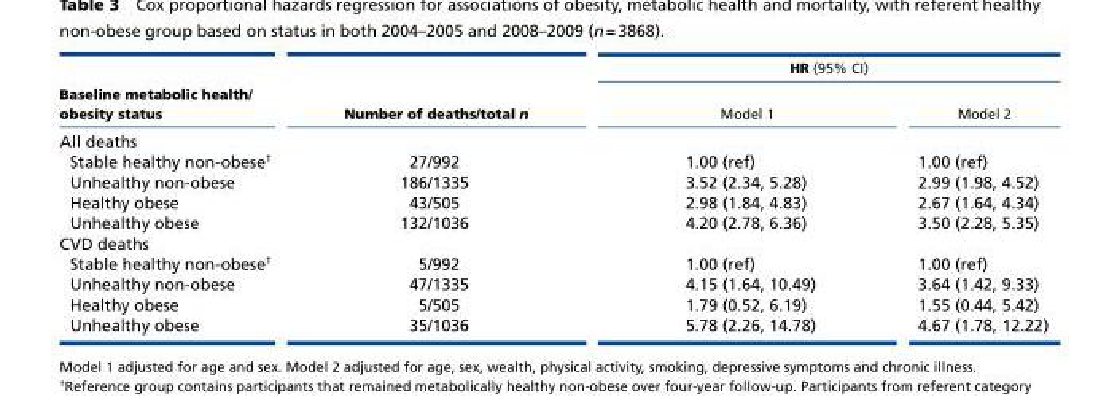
<table><thead><tr><td rowspan="2">Baseline metabolic health/ obesity status</td><td rowspan="2">Number of deaths/total n</td><td colspan="2">HR (95% CI)</td></tr><tr><td>Model 1</td><td>Model 2</td></tr></thead><tbody><tr><td colspan="4">All deaths</td></tr><tr><td>Stable healthy non-obese<sup>†</sup></td><td>27/992</td><td>1.00 (ref)</td><td>1.00 (ref)</td></tr><tr><td>Unhealthy non-obese</td><td>186/1335</td><td>3.52 (2.34, 5.28)</td><td>2.99 (1.98, 4.52)</td></tr><tr><td>Healthy obese</td><td>43/505</td><td>2.98 (1.84, 4.83)</td><td>2.67 (1.64, 4.34)</td></tr><tr><td>Unhealthy obese</td><td>132/1036</td><td>4.20 (2.78, 6.36)</td><td>3.50 (2.28, 5.35)</td></tr><tr><td colspan="4">CVD deaths</td></tr><tr><td>Stable healthy non-obese<sup>†</sup></td><td>5/992</td><td>1.00 (ref)</td><td>1.00 (ref)</td></tr><tr><td>Unhealthy non-obese</td><td>47/1335</td><td>4.15 (1.64, 10.49)</td><td>3.64 (1.42, 9.33)</td></tr><tr><td>Healthy obese</td><td>5/505</td><td>1.79 (0.52, 6.19)</td><td>1.55 (0.44, 5.42)</td></tr><tr><td>Unhealthy obese</td><td>35/1036</td><td>5.78 (2.26, 14.78)</td><td>4.67 (1.78, 12.22)</td></tr></tbody></table>